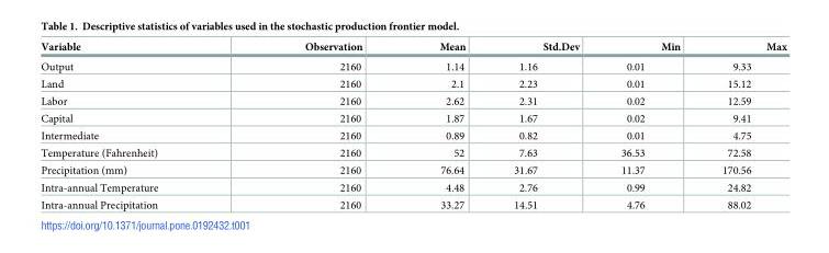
<table><thead><tr><td>Variable</td><td>Observation</td><td>Mean</td><td>Std.Dev</td><td>Min</td><td>Max</td></tr></thead><tbody><tr><td>Output</td><td>2160</td><td>1.14</td><td>1.16</td><td>0.01</td><td>9.33</td></tr><tr><td>Land</td><td>2160</td><td>2.1</td><td>2.23</td><td>0.01</td><td>15.12</td></tr><tr><td>Labor</td><td>2160</td><td>2.62</td><td>2.31</td><td>0.02</td><td>12.59</td></tr><tr><td>Capital</td><td>2160</td><td>1.87</td><td>1.67</td><td>0.02</td><td>9.41</td></tr><tr><td>Intermediate</td><td>2160</td><td>0.89</td><td>0.82</td><td>0.01</td><td>4.75</td></tr><tr><td>Temperature (Fahrenheit)</td><td>2160</td><td>52</td><td>7.63</td><td>36.53</td><td>72.58</td></tr><tr><td>Precipitation (mm)</td><td>2160</td><td>76.64</td><td>31.67</td><td>11.37</td><td>170.56</td></tr><tr><td>Intra-annual Temperature</td><td>2160</td><td>4.48</td><td>2.76</td><td>0.99</td><td>24.82</td></tr><tr><td>Intra-annual Precipitation</td><td>2160</td><td>33.27</td><td>14.51</td><td>4.76</td><td>88.02</td></tr></tbody></table>